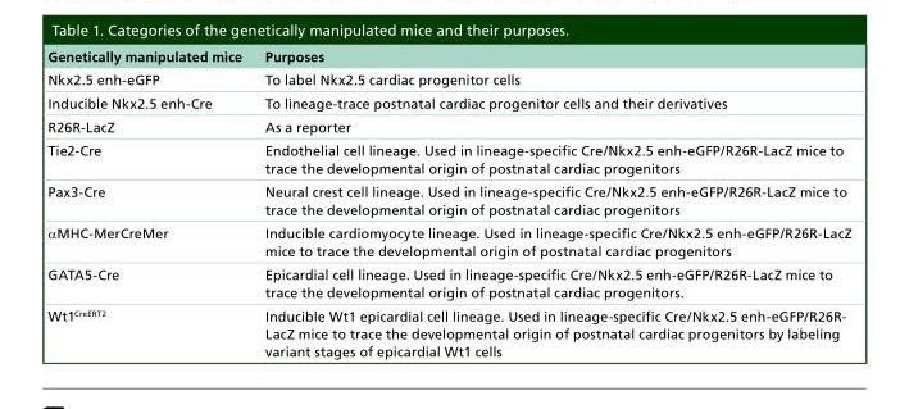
<table><thead><tr><td>Genetically manipulated mice</td><td>Purposes</td></tr></thead><tbody><tr><td>Nkx2.5 enh-eGFP</td><td>To label Nkx2.5 cardiac progenitor cells</td></tr><tr><td>Inducible Nkx2.5 enh-Cre</td><td>To lineage-trace postnatal cardiac progenitor cells and their derivatives</td></tr><tr><td>R26R-LacZ</td><td>As a reporter</td></tr><tr><td>Tie2-Cre</td><td>Endothelial cell lineage. Used in lineage-specific Cre/Nkx2.5 enh-eGFP/R26R-LacZ mice to trace the developmental origin of postnatal cardiac progenitors</td></tr><tr><td>Pax3-Cre</td><td>Neural crest cell lineage. Used in lineage-specific Cre/Nkx2.5 enh-eGFP/R26R-LacZ mice to trace the developmental origin of postnatal cardiac progenitors</td></tr><tr><td>αMHC-MerCreMer</td><td>Inducible cardiomyocyte lineage. Used in lineage-specific Cre/Nkx2.5 enh-eGFP/R26R-LacZ mice to trace the developmental origin of postnatal cardiac progenitors</td></tr><tr><td>GATA5-Cre</td><td>Epicardial cell lineage. Used in lineage-specific Cre/Nkx2.5 enh-eGFP/R26R-LacZ mice to trace the developmental origin of postnatal cardiac progenitors.</td></tr><tr><td>Wt1<sup>CreERT2</sup></td><td>Inducible Wt1 epicardial cell lineage. Used in lineage-specific Cre/Nkx2.5 enh-eGFP/R26R- LacZ mice to trace the developmental origin of postnatal cardiac progenitors by labeling variant stages of epicardial Wt1 cells</td></tr></tbody></table>